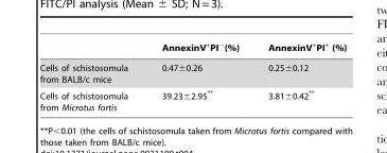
<table><thead><tr><td></td><td>AnnexinV<sup>+</sup>PI<sup>−</sup>(%)</td><td>AnnexinV<sup>+</sup>PI<sup>+</sup> (%)</td></tr></thead><tbody><tr><td>Cells of schistosomula from BALB/c mice</td><td>0.47±0.26</td><td>0.25±0.12</td></tr><tr><td>Cells of schistosomula from Microtus fortis</td><td>39.23±2.95**</td><td>3.81±0.42**</td></tr></tbody></table>